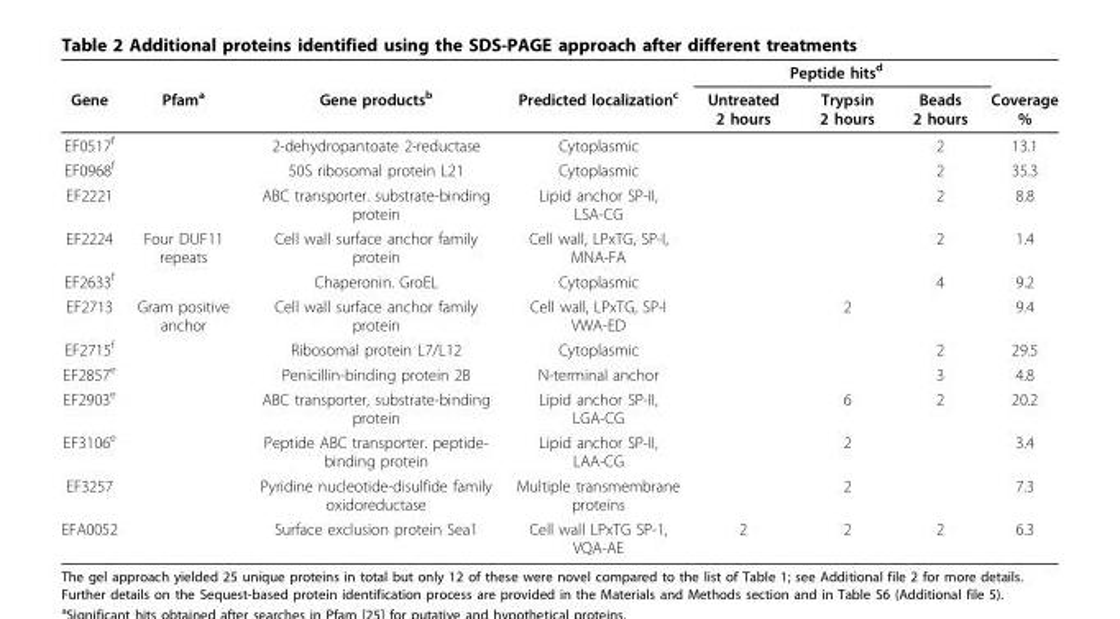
<table><thead><tr><td rowspan="2">Gene</td><td rowspan="2">Pfam<sup>a</sup></td><td rowspan="2">Gene products<sup>b</sup></td><td rowspan="2">Predicted localization<sup>c</sup></td><td colspan="3">Peptide hits<sup>d</sup></td><td rowspan="2">Coverage %</td></tr><tr><td>Untreated 2 hours</td><td>Trypsin 2 hours</td><td>Beads 2 hours</td></tr></thead><tbody><tr><td>EF0517<sup>f</sup></td><td></td><td>2-dehydropantoate 2-reductase</td><td>Cytoplasmic</td><td></td><td></td><td>2</td><td>13.1</td></tr><tr><td>EF0968<sup>f</sup></td><td></td><td>50S ribosomal protein L21</td><td>Cytoplasmic</td><td></td><td></td><td>2</td><td>35.3</td></tr><tr><td>EF2221</td><td></td><td>ABC transporter. substrate-binding protein</td><td>Lipid anchor SP-II, LSA-CG</td><td></td><td></td><td>2</td><td>8.8</td></tr><tr><td>EF2224</td><td>Four DUF11 repeats</td><td>Cell wall surface anchor family protein</td><td>Cell wall, LPxTG, SP-I, MNA-FA</td><td></td><td></td><td>2</td><td>1.4</td></tr><tr><td>EF2633<sup>f</sup></td><td></td><td>Chaperonin. GroEL</td><td>Cytoplasmic</td><td></td><td></td><td>4</td><td>9.2</td></tr><tr><td>EF2713</td><td>Gram positive anchor</td><td>Cell wall surface anchor family protein</td><td>Cell wall, LPxTG, SP-I VWA-ED</td><td></td><td>2</td><td></td><td>9.4</td></tr><tr><td>EF2715<sup>f</sup></td><td></td><td>Ribosomal protein L7/L12</td><td>Cytoplasmic</td><td></td><td></td><td>2</td><td>29.5</td></tr><tr><td>EF2857<sup>e</sup></td><td></td><td>Penicillin-binding protein 2B</td><td>N-terminal anchor</td><td></td><td></td><td>3</td><td>4.8</td></tr><tr><td>EF2903<sup>e</sup></td><td></td><td>ABC transporter, substrate-binding protein</td><td>Lipid anchor SP-II, LGA-CG</td><td></td><td>6</td><td>2</td><td>20.2</td></tr><tr><td>EF3106<sup>e</sup></td><td></td><td>Peptide ABC transporter. peptide- binding protein</td><td>Lipid anchor SP-II, LAA-CG</td><td></td><td>2</td><td></td><td>3.4</td></tr><tr><td>EF3257</td><td></td><td>Pyridine nucleotide-disulfide family oxidoreductase</td><td>Multiple transmembrane proteins</td><td></td><td>2</td><td></td><td>7.3</td></tr><tr><td>EFA0052</td><td></td><td>Surface exclusion protein Sea1</td><td>Cell wall LPxTG SP-1, VQA-AE</td><td>2</td><td>2</td><td>2</td><td>6.3</td></tr></tbody></table>